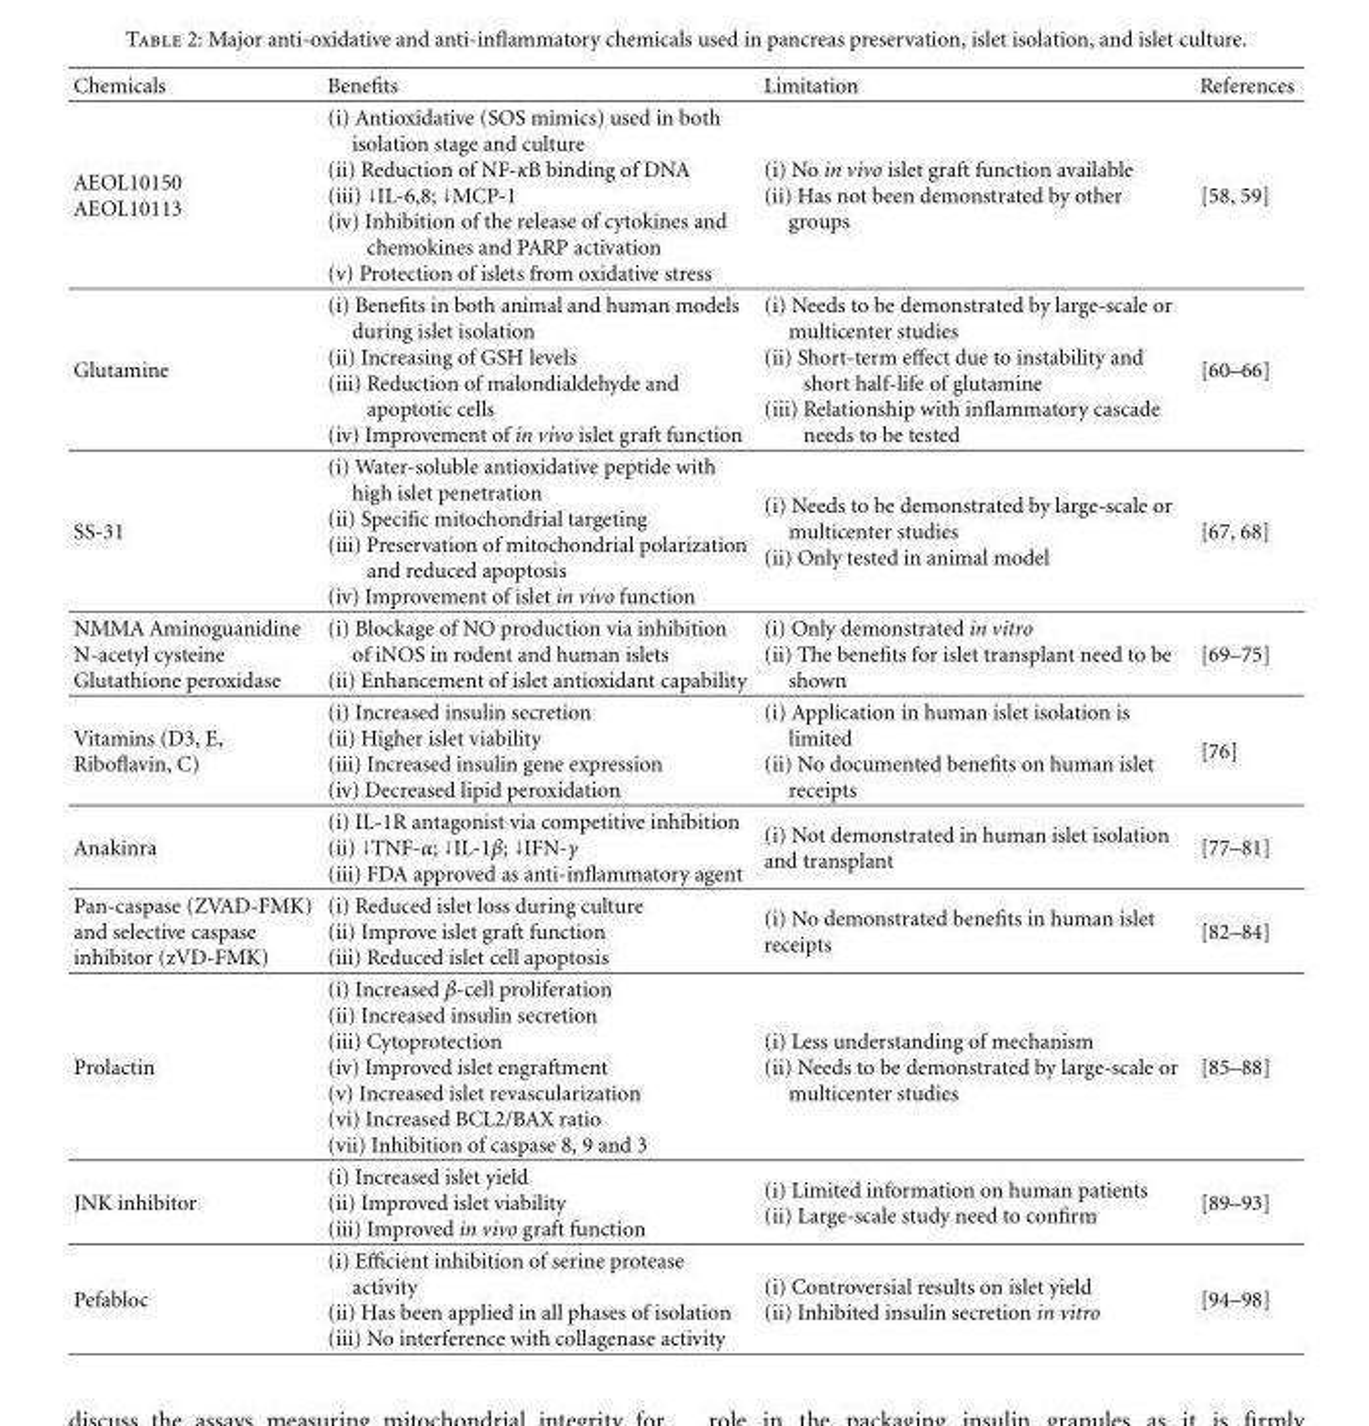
<table><thead><tr><td>Chemicals</td><td>Benefits</td><td>Limitation</td><td>References</td></tr></thead><tbody><tr><td>AEOL10150 AEOL10113</td><td>(i) Antioxidative (SOS mimics) used in both isolation stage and culture (ii) Reduction of NF-κB binding of DNA (iii) ↓IL-6,8; ↓MCP-1 (iv) Inhibition of the release of cytokines and chemokines and PARP activation (v) Protection of islets from oxidative stress</td><td>(i) No in vivo islet graft function available (ii) Has not been demonstrated by other groups</td><td>[58, 59]</td></tr><tr><td>Glutamine</td><td>(i) Benefits in both animal and human models during islet isolation (ii) Increasing of GSH levels (iii) Reduction of malondialdehyde and apoptotic cells (iv) Improvement of in vivo islet graft function</td><td>(i) Needs to be demonstrated by large-scale or multicenter studies (ii) Short-term effect due to instability and short half-life of glutamine (iii) Relationship with inflammatory cascade needs to be tested</td><td>[60–66]</td></tr><tr><td>SS-31</td><td>(i) Water-soluble antioxidative peptide with high islet penetration (ii) Specific mitochondrial targeting (iii) Preservation of mitochondrial polarization and reduced apoptosis (iv) Improvement of islet in vivo function</td><td>(i) Needs to be demonstrated by large-scale or multicenter studies (ii) Only tested in animal model</td><td>[67, 68]</td></tr><tr><td>NMMA Aminoguanidine N-acetyl cysteine Glutathione peroxidase</td><td>(i) Blockage of NO production via inhibition of iNOS in rodent and human islets (ii) Enhancement of islet antioxidant capability</td><td>(i) Only demonstrated in vitro (ii) The benefits for islet transplant need to be shown</td><td>[69–75]</td></tr><tr><td>Vitamins (D3, E, Riboflavin, C)</td><td>(i) Increased insulin secretion (ii) Higher islet viability (iii) Increased insulin gene expression (iv) Decreased lipid peroxidation</td><td>(i) Application in human islet isolation is limited (ii) No documented benefits on human islet receipts</td><td>[76]</td></tr><tr><td>Anakinra</td><td>(i) IL-1R antagonist via competitive inhibition (ii) ↓TNF-α; ↓IL-1β; ↓IFN-γ (iii) FDA approved as anti-inflammatory agent</td><td>(i) Not demonstrated in human islet isolation and transplant</td><td>[77–81]</td></tr><tr><td>Pan-caspase (ZVAD-FMK) and selective caspase inhibitor (zVD-FMK)</td><td>(i) Reduced islet loss during culture (ii) Improve islet graft function (iii) Reduced islet cell apoptosis</td><td>(i) No demonstrated benefits in human islet receipts</td><td>[82–84]</td></tr><tr><td>Prolactin</td><td>(i) Increased β-cell proliferation (ii) Increased insulin secretion (iii) Cytoprotection (iv) Improved islet engraftment (v) Increased islet revascularization (vi) Increased BCL2/BAX ratio (vii) Inhibition of caspase 8, 9 and 3</td><td>(i) Less understanding of mechanism (ii) Needs to be demonstrated by large-scale or multicenter studies</td><td>[85–88]</td></tr><tr><td>JNK inhibitor</td><td>(i) Increased islet yield (ii) Improved islet viability (iii) Improved in vivo graft function</td><td>(i) Limited information on human patients (ii) Large-scale study need to confirm</td><td>[89–93]</td></tr><tr><td>Pefabloc</td><td>(i) Efficient inhibition of serine protease activity (ii) Has been applied in all phases of isolation (iii) No interference with collagenase activity</td><td>(i) Controversial results on islet yield (ii) Inhibited insulin secretion in vitro</td><td>[94–98]</td></tr></tbody></table>